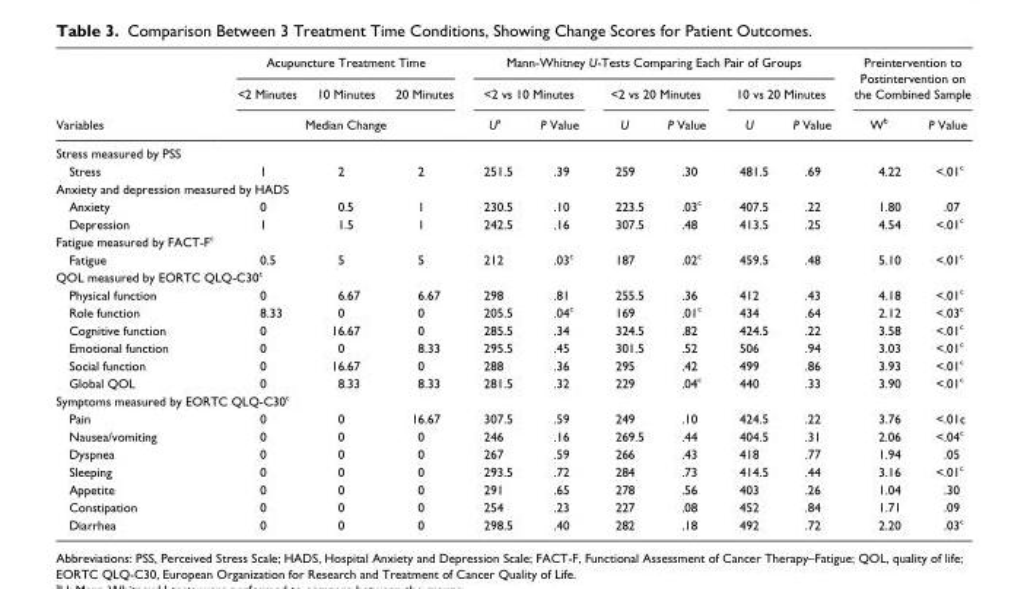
<table><thead><tr><td rowspan="3">Variables</td><td colspan="3">Acupuncture Treatment Time</td><td colspan="6">Mann-Whitney U-Tests Comparing Each Pair of Groups</td><td rowspan="2" colspan="2">Preintervention to Postintervention on the Combined Sample</td></tr><tr><td>&lt;2 Minutes</td><td>10 Minutes</td><td>20 Minutes</td><td colspan="2">&lt;2 vs 10 Minutes</td><td colspan="2">&lt;2 vs 20 Minutes</td><td colspan="2">10 vs 20 Minutes</td></tr><tr><td colspan="3">Median Change</td><td>U<sup>a</sup></td><td>P Value</td><td>U</td><td>P Value</td><td>U</td><td>P Value</td><td>W<sup>b</sup></td><td>P Value</td></tr></thead><tbody><tr><td colspan="12">Stress measured by PSS</td></tr><tr><td>Stress</td><td>1</td><td>2</td><td>2</td><td>251.5</td><td>.39</td><td>259</td><td>.30</td><td>481.5</td><td>.69</td><td>4.22</td><td>&lt;.01<sup>c</sup></td></tr><tr><td colspan="12">Anxiety and depression measured by HADS</td></tr><tr><td>Anxiety</td><td>0</td><td>0.5</td><td>1</td><td>230.5</td><td>.10</td><td>223.5</td><td>.03<sup>c</sup></td><td>407.5</td><td>.22</td><td>1.80</td><td>.07</td></tr><tr><td>Depression</td><td>1</td><td>1.5</td><td>1</td><td>242.5</td><td>.16</td><td>307.5</td><td>.48</td><td>413.5</td><td>.25</td><td>4.54</td><td>&lt;.01<sup>c</sup></td></tr><tr><td colspan="12">Fatigue measured by FACT-F<sup>c</sup></td></tr><tr><td>Fatigue</td><td>0.5</td><td>5</td><td>5</td><td>212</td><td>.03<sup>c</sup></td><td>187</td><td>.02<sup>c</sup></td><td>459.5</td><td>.48</td><td>5.10</td><td>&lt;.01<sup>c</sup></td></tr><tr><td colspan="12">QOL measured by EORTC QLQ-C30<sup>c</sup></td></tr><tr><td>Physical function</td><td>0</td><td>6.67</td><td>6.67</td><td>298</td><td>.81</td><td>255.5</td><td>.36</td><td>412</td><td>.43</td><td>4.18</td><td>&lt;.01<sup>c</sup></td></tr><tr><td>Role function</td><td>8.33</td><td>0</td><td>0</td><td>205.5</td><td>.04<sup>c</sup></td><td>169</td><td>.01<sup>c</sup></td><td>434</td><td>.64</td><td>2.12</td><td>&lt;.03<sup>c</sup></td></tr><tr><td>Cognitive function</td><td>0</td><td>16.67</td><td>0</td><td>285.5</td><td>.34</td><td>324.5</td><td>.82</td><td>424.5</td><td>.22</td><td>3.58</td><td>&lt;.01<sup>c</sup></td></tr><tr><td>Emotional function</td><td>0</td><td>0</td><td>8.33</td><td>295.5</td><td>.45</td><td>301.5</td><td>.52</td><td>506</td><td>.94</td><td>3.03</td><td>&lt;.01<sup>c</sup></td></tr><tr><td>Social function</td><td>0</td><td>16.67</td><td>0</td><td>288</td><td>.36</td><td>295</td><td>.42</td><td>499</td><td>.86</td><td>3.93</td><td>&lt;.01<sup>c</sup></td></tr><tr><td>Global QOL</td><td>0</td><td>8.33</td><td>8.33</td><td>281.5</td><td>.32</td><td>229</td><td>.04<sup>c</sup></td><td>440</td><td>.33</td><td>3.90</td><td>&lt;.01<sup>c</sup></td></tr><tr><td colspan="12">Symptoms measured by EORTC QLQ-C30<sup>c</sup></td></tr><tr><td>Pain</td><td>0</td><td>0</td><td>16.67</td><td>307.5</td><td>.59</td><td>249</td><td>.10</td><td>424.5</td><td>.22</td><td>3.76</td><td>&lt;.01c</td></tr><tr><td>Nausea/vomiting</td><td>0</td><td>0</td><td>0</td><td>246</td><td>.16</td><td>269.5</td><td>.44</td><td>404.5</td><td>.31</td><td>2.06</td><td>&lt;.04<sup>c</sup></td></tr><tr><td>Dyspnea</td><td>0</td><td>0</td><td>0</td><td>267</td><td>.59</td><td>266</td><td>.43</td><td>418</td><td>.77</td><td>1.94</td><td>.05</td></tr><tr><td>Sleeping</td><td>0</td><td>0</td><td>0</td><td>293.5</td><td>.72</td><td>284</td><td>.73</td><td>414.5</td><td>.44</td><td>3.16</td><td>&lt;.01<sup>c</sup></td></tr><tr><td>Appetite</td><td>0</td><td>0</td><td>0</td><td>291</td><td>.65</td><td>278</td><td>.56</td><td>403</td><td>.26</td><td>1.04</td><td>.30</td></tr><tr><td>Constipation</td><td>0</td><td>0</td><td>0</td><td>254</td><td>.23</td><td>227</td><td>.08</td><td>452</td><td>.84</td><td>1.71</td><td>.09</td></tr><tr><td>Diarrhea</td><td>0</td><td>0</td><td>0</td><td>298.5</td><td>.40</td><td>282</td><td>.18</td><td>492</td><td>.72</td><td>2.20</td><td>.03<sup>c</sup></td></tr></tbody></table>